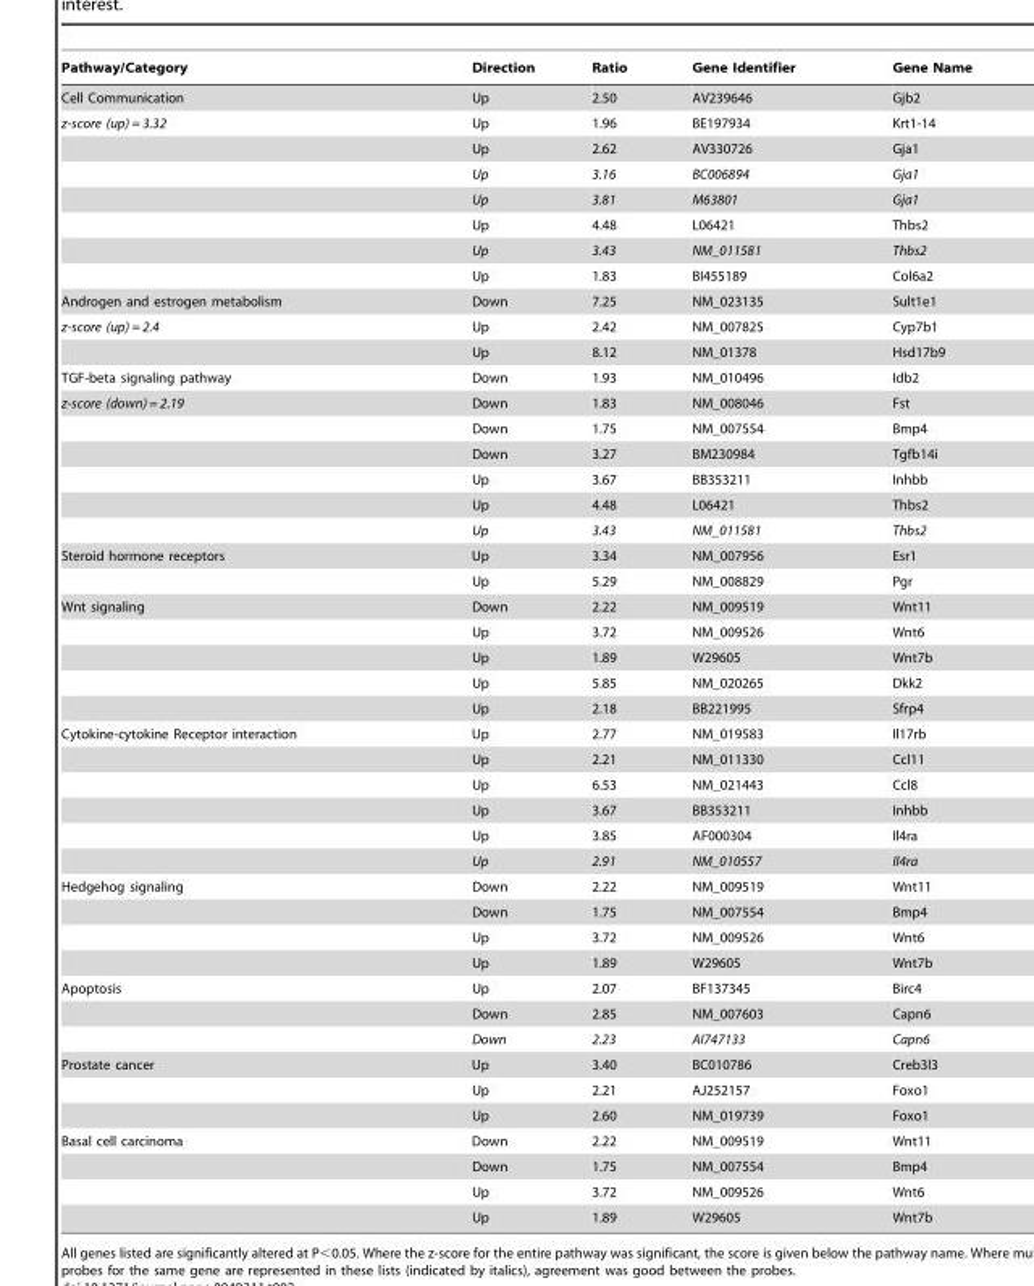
<table><thead><tr><td>Pathway/Category</td><td>Direction</td><td>Ratio</td><td>Gene Identifier</td><td>Gene Name</td></tr></thead><tbody><tr><td>Cell Communication</td><td>Up</td><td>2.50</td><td>AV239646</td><td>Gjb2</td></tr><tr><td rowspan="7">z-score (up) = 3.32</td><td>Up</td><td>1.96</td><td>BE197934</td><td>Krt1-14</td></tr><tr><td>Up</td><td>2.62</td><td>AV330726</td><td>Gja1</td></tr><tr><td>Up</td><td>3.16</td><td>BC006894</td><td>Gja1</td></tr><tr><td>Up</td><td>3.81</td><td>M63801</td><td>Gja1</td></tr><tr><td>Up</td><td>4.48</td><td>L06421</td><td>Thbs2</td></tr><tr><td>Up</td><td>3.43</td><td>NM_011581</td><td>Thbs2</td></tr><tr><td>Up</td><td>1.83</td><td>BI455189</td><td>Col6a2</td></tr><tr><td>Androgen and estrogen metabolism</td><td>Down</td><td>7.25</td><td>NM_023135</td><td>Sult1e1</td></tr><tr><td rowspan="2">z-score (up) = 2.4</td><td>Up</td><td>2.42</td><td>NM_007825</td><td>Cyp7b1</td></tr><tr><td>Up</td><td>8.12</td><td>NM_01378</td><td>Hsd17b9</td></tr><tr><td>TGF-beta signaling pathway</td><td>Down</td><td>1.93</td><td>NM_010496</td><td>Idb2</td></tr><tr><td rowspan="6">z-score (down) = 2.19</td><td>Down</td><td>1.83</td><td>NM_008046</td><td>Fst</td></tr><tr><td>Down</td><td>1.75</td><td>NM_007554</td><td>Bmp4</td></tr><tr><td>Down</td><td>3.27</td><td>BM230984</td><td>Tgfb14i</td></tr><tr><td>Up</td><td>3.67</td><td>BB353211</td><td>Inhbb</td></tr><tr><td>Up</td><td>4.48</td><td>L06421</td><td>Thbs2</td></tr><tr><td>Up</td><td>3.43</td><td>NM_011581</td><td>Thbs2</td></tr><tr><td rowspan="2">Steroid hormone receptors</td><td>Up</td><td>3.34</td><td>NM_007956</td><td>Esr1</td></tr><tr><td>Up</td><td>5.29</td><td>NM_008829</td><td>Pgr</td></tr><tr><td rowspan="5">Wnt signaling</td><td>Down</td><td>2.22</td><td>NM_009519</td><td>Wnt11</td></tr><tr><td>Up</td><td>3.72</td><td>NM_009526</td><td>Wnt6</td></tr><tr><td>Up</td><td>1.89</td><td>W29605</td><td>Wnt7b</td></tr><tr><td>Up</td><td>5.85</td><td>NM_020265</td><td>Dkk2</td></tr><tr><td>Up</td><td>2.18</td><td>BB221995</td><td>Sfrp4</td></tr><tr><td rowspan="6">Cytokine-cytokine Receptor interaction</td><td>Up</td><td>2.77</td><td>NM_019583</td><td>Il17rb</td></tr><tr><td>Up</td><td>2.21</td><td>NM_011330</td><td>Ccl11</td></tr><tr><td>Up</td><td>6.53</td><td>NM_021443</td><td>Ccl8</td></tr><tr><td>Up</td><td>3.67</td><td>BB353211</td><td>Inhbb</td></tr><tr><td>Up</td><td>3.85</td><td>AF000304</td><td>Il4ra</td></tr><tr><td>Up</td><td>2.91</td><td>NM_010557</td><td>Il4ra</td></tr><tr><td rowspan="4">Hedgehog signaling</td><td>Down</td><td>2.22</td><td>NM_009519</td><td>Wnt11</td></tr><tr><td>Down</td><td>1.75</td><td>NM_007554</td><td>Bmp4</td></tr><tr><td>Up</td><td>3.72</td><td>NM_009526</td><td>Wnt6</td></tr><tr><td>Up</td><td>1.89</td><td>W29605</td><td>Wnt7b</td></tr><tr><td rowspan="3">Apoptosis</td><td>Up</td><td>2.07</td><td>BF137345</td><td>Birc4</td></tr><tr><td>Down</td><td>2.85</td><td>NM_007603</td><td>Capn6</td></tr><tr><td>Down</td><td>2.23</td><td>AI747133</td><td>Capn6</td></tr><tr><td rowspan="3">Prostate cancer</td><td>Up</td><td>3.40</td><td>BC010786</td><td>Creb3l3</td></tr><tr><td>Up</td><td>2.21</td><td>AJ252157</td><td>Foxo1</td></tr><tr><td>Up</td><td>2.60</td><td>NM_019739</td><td>Foxo1</td></tr><tr><td rowspan="4">Basal cell carcinoma</td><td>Down</td><td>2.22</td><td>NM_009519</td><td>Wnt11</td></tr><tr><td>Down</td><td>1.75</td><td>NM_007554</td><td>Bmp4</td></tr><tr><td>Up</td><td>3.72</td><td>NM_009526</td><td>Wnt6</td></tr><tr><td>Up</td><td>1.89</td><td>W29605</td><td>Wnt7b</td></tr></tbody></table>